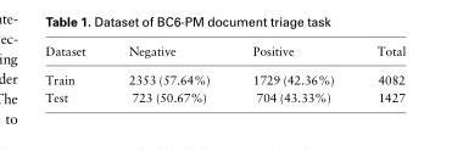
<table><thead><tr><td>Dataset</td><td>Negative</td><td>Positive</td><td>Total</td></tr></thead><tbody><tr><td>Train</td><td>2353 (57.64%)</td><td>1729 (42.36%)</td><td>4082</td></tr><tr><td>Test</td><td>723 (50.67%)</td><td>704 (43.33%)</td><td>1427</td></tr></tbody></table>